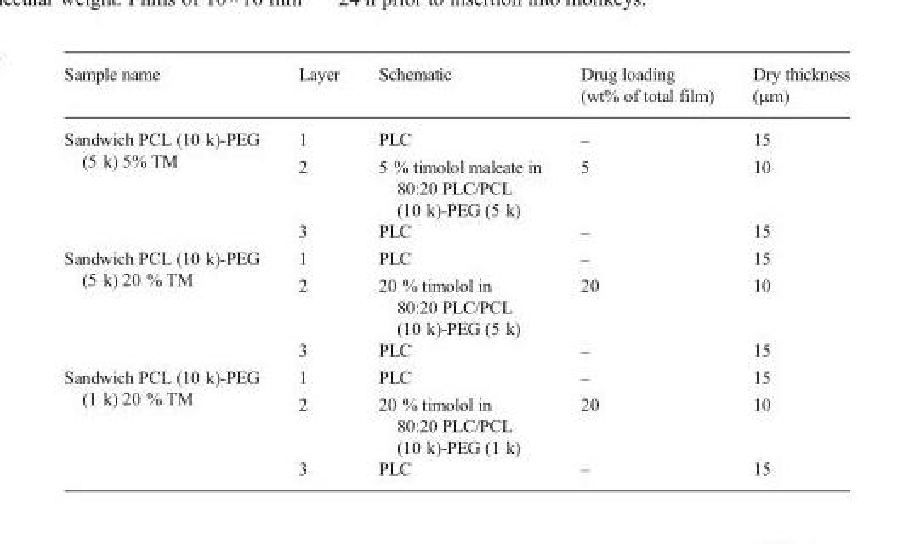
<table><thead><tr><td>Sample name</td><td>Layer</td><td>Schematic</td><td>Drug loading (wt% of total film)</td><td>Dry thickness (μm)</td></tr></thead><tbody><tr><td rowspan="3">Sandwich PCL (10 k)-PEG (5 k) 5% TM</td><td>1</td><td>PLC</td><td>–</td><td>15</td></tr><tr><td>2</td><td>5 % timolol maleate in 80:20 PLC/PCL (10 k)-PEG (5 k)</td><td>5</td><td>10</td></tr><tr><td>3</td><td>PLC</td><td>–</td><td>15</td></tr><tr><td rowspan="3">Sandwich PCL (10 k)-PEG (5 k) 20 % TM</td><td>1</td><td>PLC</td><td>–</td><td>15</td></tr><tr><td>2</td><td>20 % timolol in 80:20 PLC/PCL (10 k)-PEG (5 k)</td><td>20</td><td>10</td></tr><tr><td>3</td><td>PLC</td><td>–</td><td>15</td></tr><tr><td rowspan="3">Sandwich PCL (10 k)-PEG (1 k) 20 % TM</td><td>1</td><td>PLC</td><td>–</td><td>15</td></tr><tr><td>2</td><td>20 % timolol in 80:20 PLC/PCL (10 k)-PEG (1 k)</td><td>20</td><td>10</td></tr><tr><td>3</td><td>PLC</td><td>–</td><td>15</td></tr></tbody></table>